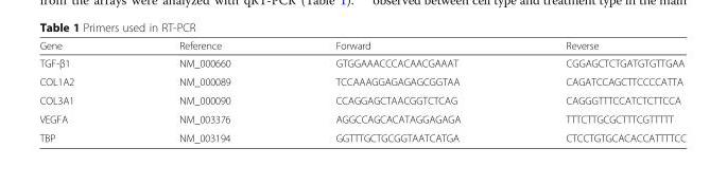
<table><thead><tr><td>Gene</td><td>Reference</td><td>Forward</td><td>Reverse</td></tr></thead><tbody><tr><td>TGF-β1</td><td>NM_000660</td><td>GTGGAAACCCACAACGAAAT</td><td>CGGAGCTCTGATGTGTTGAA</td></tr><tr><td>COL1A2</td><td>NM_000089</td><td>TCCAAAGGAGAGAGCGGTAA</td><td>CAGATCCAGCTTCCCCATTA</td></tr><tr><td>COL3A1</td><td>NM_000090</td><td>CCAGGAGCTAACGGTCTCAG</td><td>CAGGGTTTCCATCTCTTCCA</td></tr><tr><td>VEGFA</td><td>NM_003376</td><td>AGGCCAGCACATAGGAGAGA</td><td>TTTCTTGCGCTTTCGTTTTT</td></tr><tr><td>TBP</td><td>NM_003194</td><td>GGTTTGCTGCGGTAATCATGA</td><td>CTCCTGTGCACACCATTTTCC</td></tr></tbody></table>